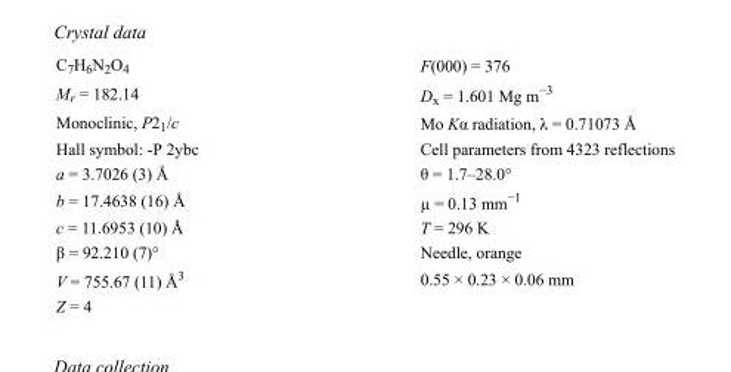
<table><tbody><tr><td>C<sub>7</sub>H<sub>6</sub>N<sub>2</sub>O<sub>4</sub></td><td>F(000) = 376</td></tr><tr><td>M<sub>r</sub> = 182.14</td><td>D<sub>x</sub> = 1.601 Mg m<sup>−3</sup></td></tr><tr><td>Monoclinic, P2<sub>1</sub>/c</td><td>Mo Kα radiation, λ = 0.71073 Å</td></tr><tr><td>Hall symbol: -P 2ybc</td><td>Cell parameters from 4323 reflections</td></tr><tr><td>a = 3.7026 (3) Å</td><td>θ = 1.7–28.0°</td></tr><tr><td>b = 17.4638 (16) Å</td><td>µ = 0.13 mm<sup>−1</sup></td></tr><tr><td>c = 11.6953 (10) Å</td><td>T = 296 K</td></tr><tr><td>β = 92.210 (7)°</td><td>Needle, orange</td></tr><tr><td>V = 755.67 (11) Å<sup>3</sup></td><td>0.55 × 0.23 × 0.06 mm</td></tr><tr><td>Z = 4</td><td></td></tr></tbody></table>